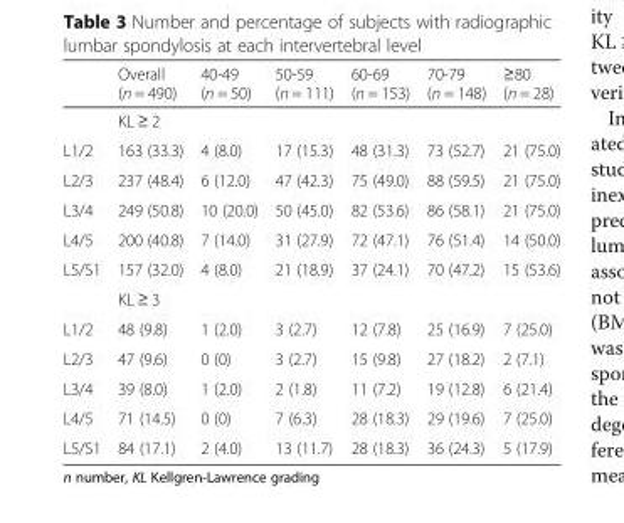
<table><thead><tr><td></td><td>Overall (n = 490)</td><td>40-49 (n = 50)</td><td>50-59 (n = 111)</td><td>60-69 (n = 153)</td><td>70-79 (n = 148)</td><td>≥80 (n = 28)</td></tr></thead><tbody><tr><td></td><td colspan="6">KL ≥ 2</td></tr><tr><td>L1/2</td><td>163 (33.3)</td><td>4 (8.0)</td><td>17 (15.3)</td><td>48 (31.3)</td><td>73 (52.7)</td><td>21 (75.0)</td></tr><tr><td>L2/3</td><td>237 (48.4)</td><td>6 (12.0)</td><td>47 (42.3)</td><td>75 (49.0)</td><td>88 (59.5)</td><td>21 (75.0)</td></tr><tr><td>L3/4</td><td>249 (50.8)</td><td>10 (20.0)</td><td>50 (45.0)</td><td>82 (53.6)</td><td>86 (58.1)</td><td>21 (75.0)</td></tr><tr><td>L4/5</td><td>200 (40.8)</td><td>7 (14.0)</td><td>31 (27.9)</td><td>72 (47.1)</td><td>76 (51.4)</td><td>14 (50.0)</td></tr><tr><td rowspan="2">L5/S1</td><td>157 (32.0)</td><td>4 (8.0)</td><td>21 (18.9)</td><td>37 (24.1)</td><td>70 (47.2)</td><td>15 (53.6)</td></tr><tr><td colspan="6">KL ≥ 3</td></tr><tr><td>L1/2</td><td>48 (9.8)</td><td>1 (2.0)</td><td>3 (2.7)</td><td>12 (7.8)</td><td>25 (16.9)</td><td>7 (25.0)</td></tr><tr><td>L2/3</td><td>47 (9.6)</td><td>0 (0)</td><td>3 (2.7)</td><td>15 (9.8)</td><td>27 (18.2)</td><td>2 (7.1)</td></tr><tr><td>L3/4</td><td>39 (8.0)</td><td>1 (2.0)</td><td>2 (1.8)</td><td>11 (7.2)</td><td>19 (12.8)</td><td>6 (21.4)</td></tr><tr><td>L4/5</td><td>71 (14.5)</td><td>0 (0)</td><td>7 (6.3)</td><td>28 (18.3)</td><td>29 (19.6)</td><td>7 (25.0)</td></tr><tr><td>L5/S1</td><td>84 (17.1)</td><td>2 (4.0)</td><td>13 (11.7)</td><td>28 (18.3)</td><td>36 (24.3)</td><td>5 (17.9)</td></tr></tbody></table>